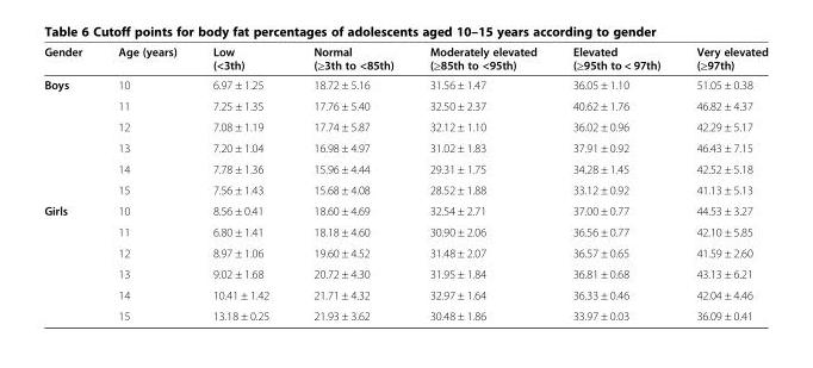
<table><thead><tr><td>Gender</td><td>Age (years)</td><td>Low (&lt;3th)</td><td>Normal (≥3th to &lt;85th)</td><td>Moderately elevated (≥85th to &lt;95th)</td><td>Elevated (≥95th to &lt; 97th)</td><td>Very elevated (≥97th)</td></tr></thead><tbody><tr><td rowspan="6">Boys</td><td>10</td><td>6.97 ± 1.25</td><td>18.72 ± 5.16</td><td>31.56 ± 1.47</td><td>36.05 ± 1.10</td><td>51.05 ± 0.38</td></tr><tr><td>11</td><td>7.25 ± 1.35</td><td>17.76 ± 5.40</td><td>32.50 ± 2.37</td><td>40.62 ± 1.76</td><td>46.82 ± 4.37</td></tr><tr><td>12</td><td>7.08 ± 1.19</td><td>17.74 ± 5.87</td><td>32.12 ± 1.10</td><td>36.02 ± 0.96</td><td>42.29 ± 5.17</td></tr><tr><td>13</td><td>7.20 ± 1.04</td><td>16.98 ± 4.97</td><td>31.02 ± 1.83</td><td>37.91 ± 0.92</td><td>46.43 ± 7.15</td></tr><tr><td>14</td><td>7.78 ± 1.36</td><td>15.96 ± 4.44</td><td>29.31 ± 1.75</td><td>34.28 ± 1.45</td><td>42.52 ± 5.18</td></tr><tr><td>15</td><td>7.56 ± 1.43</td><td>15.68 ± 4.08</td><td>28.52 ± 1.88</td><td>33.12 ± 0.92</td><td>41.13 ± 5.13</td></tr><tr><td rowspan="6">Girls</td><td>10</td><td>8.56 ± 0.41</td><td>18.60 ± 4.69</td><td>32.54 ± 2.71</td><td>37.00 ± 0.77</td><td>44.53 ± 3.27</td></tr><tr><td>11</td><td>6.80 ± 1.41</td><td>18.18 ± 4.60</td><td>30.90 ± 2.06</td><td>36.56 ± 0.77</td><td>42.10 ± 5.85</td></tr><tr><td>12</td><td>8.97 ± 1.06</td><td>19.60 ± 4.52</td><td>31.48 ± 2.07</td><td>36.57 ± 0.65</td><td>41.59 ± 2.60</td></tr><tr><td>13</td><td>9.02 ± 1.68</td><td>20.72 ± 4.30</td><td>31.95 ± 1.84</td><td>36.81 ± 0.68</td><td>43.13 ± 6.21</td></tr><tr><td>14</td><td>10.41 ± 1.42</td><td>21.71 ± 4.32</td><td>32.97 ± 1.64</td><td>36.33 ± 0.46</td><td>42.04 ± 4.46</td></tr><tr><td>15</td><td>13.18 ± 0.25</td><td>21.93 ± 3.62</td><td>30.48 ± 1.86</td><td>33.97 ± 0.03</td><td>36.09 ± 0.41</td></tr></tbody></table>